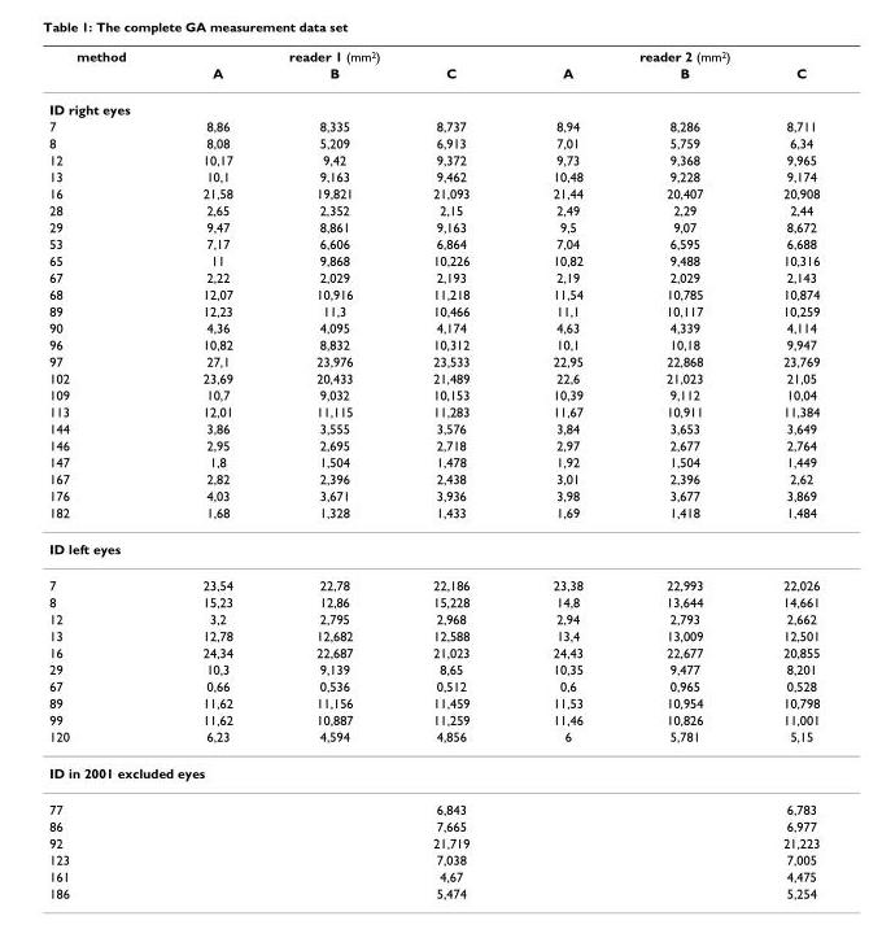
<table><thead><tr><td rowspan="2">method</td><td colspan="3">reader 1 (mm2)</td><td colspan="3">reader 2 (mm2)</td></tr><tr><td>A</td><td>B</td><td>C</td><td>A</td><td>B</td><td>C</td></tr></thead><tbody><tr><td colspan="7">ID right eyes</td></tr><tr><td>7</td><td>8,86</td><td>8,335</td><td>8,737</td><td>8,94</td><td>8,286</td><td>8,711</td></tr><tr><td>8</td><td>8,08</td><td>5,209</td><td>6,913</td><td>7,01</td><td>5,759</td><td>6,34</td></tr><tr><td>12</td><td>10,17</td><td>9,42</td><td>9,372</td><td>9,73</td><td>9,368</td><td>9,965</td></tr><tr><td>13</td><td>10,1</td><td>9,163</td><td>9,462</td><td>10,48</td><td>9,228</td><td>9,174</td></tr><tr><td>16</td><td>21,58</td><td>19,821</td><td>21,093</td><td>21,44</td><td>20,407</td><td>20,908</td></tr><tr><td>28</td><td>2,65</td><td>2,352</td><td>2,15</td><td>2,49</td><td>2,29</td><td>2,44</td></tr><tr><td>29</td><td>9,47</td><td>8,861</td><td>9,163</td><td>9,5</td><td>9,07</td><td>8,672</td></tr><tr><td>53</td><td>7,17</td><td>6,606</td><td>6,864</td><td>7,04</td><td>6,595</td><td>6,688</td></tr><tr><td>65</td><td>11</td><td>9,868</td><td>10,226</td><td>10,82</td><td>9,488</td><td>10,316</td></tr><tr><td>67</td><td>2,22</td><td>2,029</td><td>2,193</td><td>2,19</td><td>2,029</td><td>2,143</td></tr><tr><td>68</td><td>12,07</td><td>10,916</td><td>11,218</td><td>11,54</td><td>10,785</td><td>10,874</td></tr><tr><td>89</td><td>12,23</td><td>11,3</td><td>10,466</td><td>11,1</td><td>10,117</td><td>10,259</td></tr><tr><td>90</td><td>4,36</td><td>4,095</td><td>4,174</td><td>4,63</td><td>4,339</td><td>4,114</td></tr><tr><td>96</td><td>10,82</td><td>8,832</td><td>10,312</td><td>10,1</td><td>10,18</td><td>9,947</td></tr><tr><td>97</td><td>27,1</td><td>23,976</td><td>23,533</td><td>22,95</td><td>22,868</td><td>23,769</td></tr><tr><td>102</td><td>23,69</td><td>20,433</td><td>21,489</td><td>22,6</td><td>21,023</td><td>21,05</td></tr><tr><td>109</td><td>10,7</td><td>9,032</td><td>10,153</td><td>10,39</td><td>9,112</td><td>10,04</td></tr><tr><td>113</td><td>12,01</td><td>11,115</td><td>11,283</td><td>11,67</td><td>10,911</td><td>11,384</td></tr><tr><td>144</td><td>3,86</td><td>3,555</td><td>3,576</td><td>3,84</td><td>3,653</td><td>3,649</td></tr><tr><td>146</td><td>2,95</td><td>2,695</td><td>2,718</td><td>2,97</td><td>2,677</td><td>2,764</td></tr><tr><td>147</td><td>1,8</td><td>1,504</td><td>1,478</td><td>1,92</td><td>1,504</td><td>1,449</td></tr><tr><td>167</td><td>2,82</td><td>2,396</td><td>2,438</td><td>3,01</td><td>2,396</td><td>2,62</td></tr><tr><td>176</td><td>4,03</td><td>3,671</td><td>3,936</td><td>3,98</td><td>3,677</td><td>3,869</td></tr><tr><td>182</td><td>1,68</td><td>1,328</td><td>1,433</td><td>1,69</td><td>1,418</td><td>1,484</td></tr><tr><td colspan="7">ID left eyes</td></tr><tr><td>7</td><td>23,54</td><td>22,78</td><td>22,186</td><td>23,38</td><td>22,993</td><td>22,026</td></tr><tr><td>8</td><td>15,23</td><td>12,86</td><td>15,228</td><td>14,8</td><td>13,644</td><td>14,661</td></tr><tr><td>12</td><td>3,2</td><td>2,795</td><td>2,968</td><td>2,94</td><td>2,793</td><td>2,662</td></tr><tr><td>13</td><td>12,78</td><td>12,682</td><td>12,588</td><td>13,4</td><td>13,009</td><td>12,501</td></tr><tr><td>16</td><td>24,34</td><td>22,687</td><td>21,023</td><td>24,43</td><td>22,677</td><td>20,855</td></tr><tr><td>29</td><td>10,3</td><td>9,139</td><td>8,65</td><td>10,35</td><td>9,477</td><td>8,201</td></tr><tr><td>67</td><td>0,66</td><td>0,536</td><td>0,512</td><td>0,6</td><td>0,965</td><td>0,528</td></tr><tr><td>89</td><td>11,62</td><td>11,156</td><td>11,459</td><td>11,53</td><td>10,954</td><td>10,798</td></tr><tr><td>99</td><td>11,62</td><td>10,887</td><td>11,259</td><td>11,46</td><td>10,826</td><td>11,001</td></tr><tr><td>120</td><td>6,23</td><td>4,594</td><td>4,856</td><td>6</td><td>5,781</td><td>5,15</td></tr><tr><td colspan="7">ID in 2001 excluded eyes</td></tr><tr><td>77</td><td></td><td></td><td>6,843</td><td></td><td></td><td>6,783</td></tr><tr><td>86</td><td></td><td></td><td>7,665</td><td></td><td></td><td>6,977</td></tr><tr><td>92</td><td></td><td></td><td>21,719</td><td></td><td></td><td>21,223</td></tr><tr><td>123</td><td></td><td></td><td>7,038</td><td></td><td></td><td>7,005</td></tr><tr><td>161</td><td></td><td></td><td>4,67</td><td></td><td></td><td>4,475</td></tr><tr><td>186</td><td></td><td></td><td>5,474</td><td></td><td></td><td>5,254</td></tr></tbody></table>